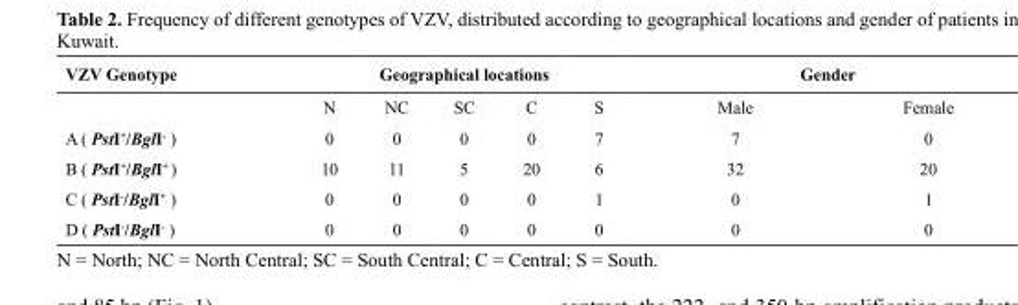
<table><thead><tr><td rowspan="2">VZV Genotype</td><td colspan="5">Geographical locations</td><td colspan="2">Gender</td></tr><tr><td>N</td><td>NC</td><td>SC</td><td>C</td><td>S</td><td>Male</td><td>Female</td></tr></thead><tbody><tr><td>A ( PstI<sup>+</sup>/BglI<sup>-</sup> )</td><td>0</td><td>0</td><td>0</td><td>0</td><td>7</td><td>7</td><td>0</td></tr><tr><td>B ( PstI<sup>+</sup>/BglI<sup>+</sup> )</td><td>10</td><td>11</td><td>5</td><td>20</td><td>6</td><td>32</td><td>20</td></tr><tr><td>C ( PstI<sup>-</sup>/BglI<sup>+</sup> )</td><td>0</td><td>0</td><td>0</td><td>0</td><td>1</td><td>0</td><td>1</td></tr><tr><td>D ( PstI<sup>-</sup>/BglI<sup>-</sup> )</td><td>0</td><td>0</td><td>0</td><td>0</td><td>0</td><td>0</td><td>0</td></tr></tbody></table>